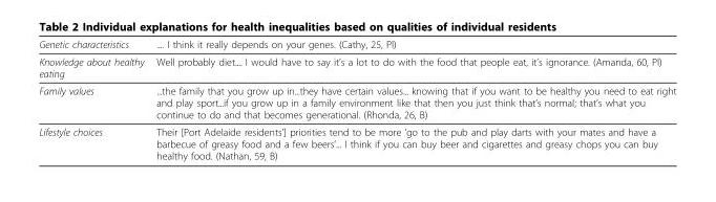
<table><thead><tr><td>Genetic characteristics</td><td>.... I think it really depends on your genes. (Cathy, 25, Pl)</td></tr></thead><tbody><tr><td>Knowledge about healthy eating</td><td>Well probably diet.... I would have to say it’s a lot to do with the food that people eat, it’s ignorance. (Amanda, 60, Pl)</td></tr><tr><td>Family values</td><td>...the family that you grow up in...they have certain values... knowing that if you want to be healthy you need to eat right and play sport...if you grow up in a family environment like that then you just think that’s normal; that’s what you continue to do and that becomes generational. (Rhonda, 26, B)</td></tr><tr><td>Lifestyle choices</td><td>Their [Port Adelaide residents’] priorities tend to be more ‘go to the pub and play darts with your mates and have a barbecue of greasy food and a few beers’... I think if you can buy beer and cigarettes and greasy chops you can buy healthy food. (Nathan, 59, B)</td></tr></tbody></table>